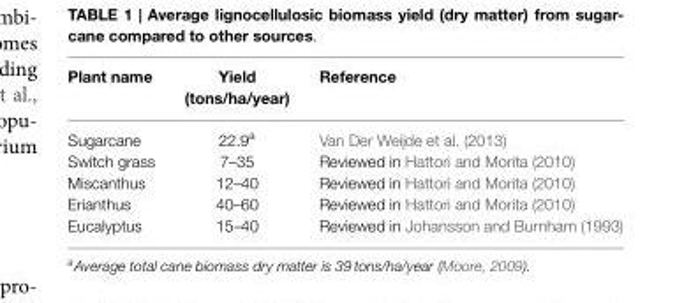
<table><thead><tr><td>Plant name</td><td>Yield (tons/ha/year)</td><td>Reference</td></tr></thead><tbody><tr><td>Sugarcane</td><td>22.9<sup>a</sup></td><td>Van Der Weijde et al. (2013)</td></tr><tr><td>Switch grass</td><td>7–35</td><td>Reviewed in Hattori and Morita (2010)</td></tr><tr><td>Miscanthus</td><td>12–40</td><td>Reviewed in Hattori and Morita (2010)</td></tr><tr><td>Erianthus</td><td>40–60</td><td>Reviewed in Hattori and Morita (2010)</td></tr><tr><td>Eucalyptus</td><td>15–40</td><td>Reviewed in Johansson and Burnham (1993)</td></tr></tbody></table>